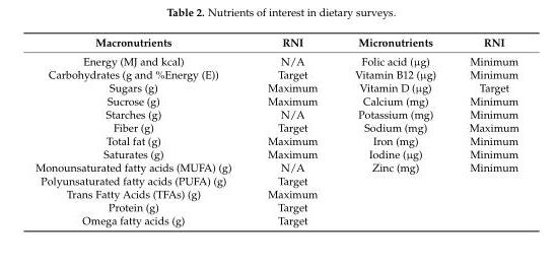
<table><thead><tr><td>Macronutrients</td><td>RNI</td><td>Micronutrients</td><td>RNI</td></tr></thead><tbody><tr><td>Energy (MJ and kcal)</td><td>N/A</td><td>Folic acid (µg)</td><td>Minimum</td></tr><tr><td>Carbohydrates (g and %Energy (E))</td><td>Target</td><td>Vitamin B12 (µg)</td><td>Minimum</td></tr><tr><td>Sugars (g)</td><td>Maximum</td><td>Vitamin D (µg)</td><td>Target</td></tr><tr><td>Sucrose (g)</td><td>Maximum</td><td>Calcium (mg)</td><td>Minimum</td></tr><tr><td>Starches (g)</td><td>N/A</td><td>Potassium (mg)</td><td>Minimum</td></tr><tr><td>Fiber (g)</td><td>Target</td><td>Sodium (mg)</td><td>Maximum</td></tr><tr><td>Total fat (g)</td><td>Maximum</td><td>Iron (mg)</td><td>Minimum</td></tr><tr><td>Saturates (g)</td><td>Maximum</td><td>Iodine (µg)</td><td>Minimum</td></tr><tr><td>Monounsaturated fatty acids (MUFA) (g)</td><td>N/A</td><td>Zinc (mg)</td><td>Minimum</td></tr><tr><td>Polyunsaturated fatty acids (PUFA) (g)</td><td>Target</td><td></td><td></td></tr><tr><td>Trans Fatty Acids (TFAs) (g)</td><td>Maximum</td><td></td><td></td></tr><tr><td>Protein (g)</td><td>Target</td><td></td><td></td></tr><tr><td>Omega fatty acids (g)</td><td>Target</td><td></td><td></td></tr></tbody></table>